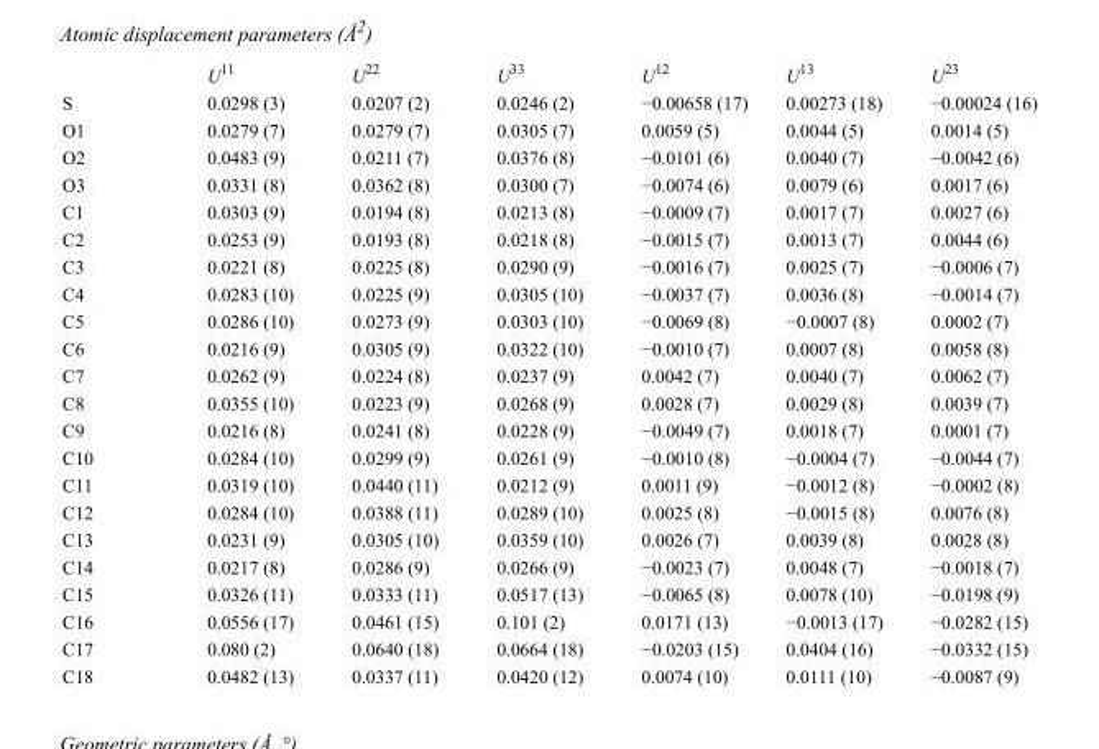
<table><thead><tr><td></td><td>U<sup>11</sup></td><td>U<sup>22</sup></td><td>U<sup>33</sup></td><td>U<sup>12</sup></td><td>U<sup>13</sup></td><td>U<sup>23</sup></td></tr></thead><tbody><tr><td>S</td><td>0.0298 (3)</td><td>0.0207 (2)</td><td>0.0246 (2)</td><td>−0.00658 (17)</td><td>0.00273 (18)</td><td>−0.00024 (16)</td></tr><tr><td>O1</td><td>0.0279 (7)</td><td>0.0279 (7)</td><td>0.0305 (7)</td><td>0.0059 (5)</td><td>0.0044 (5)</td><td>0.0014 (5)</td></tr><tr><td>O2</td><td>0.0483 (9)</td><td>0.0211 (7)</td><td>0.0376 (8)</td><td>−0.0101 (6)</td><td>0.0040 (7)</td><td>−0.0042 (6)</td></tr><tr><td>O3</td><td>0.0331 (8)</td><td>0.0362 (8)</td><td>0.0300 (7)</td><td>−0.0074 (6)</td><td>0.0079 (6)</td><td>0.0017 (6)</td></tr><tr><td>C1</td><td>0.0303 (9)</td><td>0.0194 (8)</td><td>0.0213 (8)</td><td>−0.0009 (7)</td><td>0.0017 (7)</td><td>0.0027 (6)</td></tr><tr><td>C2</td><td>0.0253 (9)</td><td>0.0193 (8)</td><td>0.0218 (8)</td><td>−0.0015 (7)</td><td>0.0013 (7)</td><td>0.0044 (6)</td></tr><tr><td>C3</td><td>0.0221 (8)</td><td>0.0225 (8)</td><td>0.0290 (9)</td><td>−0.0016 (7)</td><td>0.0025 (7)</td><td>−0.0006 (7)</td></tr><tr><td>C4</td><td>0.0283 (10)</td><td>0.0225 (9)</td><td>0.0305 (10)</td><td>−0.0037 (7)</td><td>0.0036 (8)</td><td>−0.0014 (7)</td></tr><tr><td>C5</td><td>0.0286 (10)</td><td>0.0273 (9)</td><td>0.0303 (10)</td><td>−0.0069 (8)</td><td>−0.0007 (8)</td><td>0.0002 (7)</td></tr><tr><td>C6</td><td>0.0216 (9)</td><td>0.0305 (9)</td><td>0.0322 (10)</td><td>−0.0010 (7)</td><td>0.0007 (8)</td><td>0.0058 (8)</td></tr><tr><td>C7</td><td>0.0262 (9)</td><td>0.0224 (8)</td><td>0.0237 (9)</td><td>0.0042 (7)</td><td>0.0040 (7)</td><td>0.0062 (7)</td></tr><tr><td>C8</td><td>0.0355 (10)</td><td>0.0223 (9)</td><td>0.0268 (9)</td><td>0.0028 (7)</td><td>0.0029 (8)</td><td>0.0039 (7)</td></tr><tr><td>C9</td><td>0.0216 (8)</td><td>0.0241 (8)</td><td>0.0228 (9)</td><td>−0.0049 (7)</td><td>0.0018 (7)</td><td>0.0001 (7)</td></tr><tr><td>C10</td><td>0.0284 (10)</td><td>0.0299 (9)</td><td>0.0261 (9)</td><td>−0.0010 (8)</td><td>−0.0004 (7)</td><td>−0.0044 (7)</td></tr><tr><td>C11</td><td>0.0319 (10)</td><td>0.0440 (11)</td><td>0.0212 (9)</td><td>0.0011 (9)</td><td>−0.0012 (8)</td><td>−0.0002 (8)</td></tr><tr><td>C12</td><td>0.0284 (10)</td><td>0.0388 (11)</td><td>0.0289 (10)</td><td>0.0025 (8)</td><td>−0.0015 (8)</td><td>0.0076 (8)</td></tr><tr><td>C13</td><td>0.0231 (9)</td><td>0.0305 (10)</td><td>0.0359 (10)</td><td>0.0026 (7)</td><td>0.0039 (8)</td><td>0.0028 (8)</td></tr><tr><td>C14</td><td>0.0217 (8)</td><td>0.0286 (9)</td><td>0.0266 (9)</td><td>−0.0023 (7)</td><td>0.0048 (7)</td><td>−0.0018 (7)</td></tr><tr><td>C15</td><td>0.0326 (11)</td><td>0.0333 (11)</td><td>0.0517 (13)</td><td>−0.0065 (8)</td><td>0.0078 (10)</td><td>−0.0198 (9)</td></tr><tr><td>C16</td><td>0.0556 (17)</td><td>0.0461 (15)</td><td>0.101 (2)</td><td>0.0171 (13)</td><td>−0.0013 (17)</td><td>−0.0282 (15)</td></tr><tr><td>C17</td><td>0.080 (2)</td><td>0.0640 (18)</td><td>0.0664 (18)</td><td>−0.0203 (15)</td><td>0.0404 (16)</td><td>−0.0332 (15)</td></tr><tr><td>C18</td><td>0.0482 (13)</td><td>0.0337 (11)</td><td>0.0420 (12)</td><td>0.0074 (10)</td><td>0.0111 (10)</td><td>−0.0087 (9)</td></tr></tbody></table>